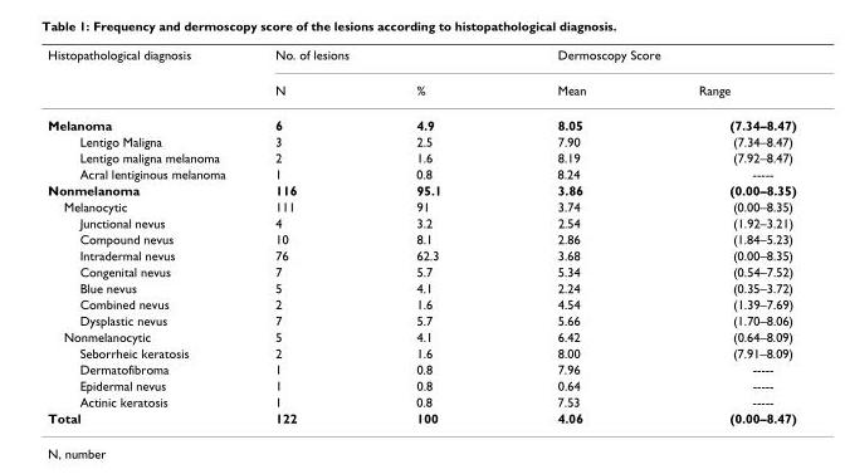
<table><thead><tr><td rowspan="2">Histopathological diagnosis</td><td colspan="2">No. of lesions</td><td colspan="2">Dermoscopy Score</td></tr><tr><td>N</td><td>%</td><td>Mean</td><td>Range</td></tr></thead><tbody><tr><td>Melanoma</td><td>6</td><td>4.9</td><td>8.05</td><td>(7.34–8.47)</td></tr><tr><td>Lentigo Maligna</td><td>3</td><td>2.5</td><td>7.90</td><td>(7.34–8.47)</td></tr><tr><td>Lentigo maligna melanoma</td><td>2</td><td>1.6</td><td>8.19</td><td>(7.92–8.47)</td></tr><tr><td>Acral lentiginous melanoma</td><td>1</td><td>0.8</td><td>8.24</td><td>-----</td></tr><tr><td>Nonmelanoma</td><td>116</td><td>95.1</td><td>3.86</td><td>(0.00–8.35)</td></tr><tr><td>Melanocytic</td><td>111</td><td>91</td><td>3.74</td><td>(0.00–8.35)</td></tr><tr><td>Junctional nevus</td><td>4</td><td>3.2</td><td>2.54</td><td>(1.92–3.21)</td></tr><tr><td>Compound nevus</td><td>10</td><td>8.1</td><td>2.86</td><td>(1.84–5.23)</td></tr><tr><td>Intradermal nevus</td><td>76</td><td>62.3</td><td>3.68</td><td>(0.00–8.35)</td></tr><tr><td>Congenital nevus</td><td>7</td><td>5.7</td><td>5.34</td><td>(0.54–7.52)</td></tr><tr><td>Blue nevus</td><td>5</td><td>4.1</td><td>2.24</td><td>(0.35–3.72)</td></tr><tr><td>Combined nevus</td><td>2</td><td>1.6</td><td>4.54</td><td>(1.39–7.69)</td></tr><tr><td>Dysplastic nevus</td><td>7</td><td>5.7</td><td>5.66</td><td>(1.70–8.06)</td></tr><tr><td>Nonmelanocytic</td><td>5</td><td>4.1</td><td>6.42</td><td>(0.64–8.09)</td></tr><tr><td>Seborrheic keratosis</td><td>2</td><td>1.6</td><td>8.00</td><td>(7.91–8.09)</td></tr><tr><td>Dermatofibroma</td><td>1</td><td>0.8</td><td>7.96</td><td>-----</td></tr><tr><td>Epidermal nevus</td><td>1</td><td>0.8</td><td>0.64</td><td>-----</td></tr><tr><td>Actinic keratosis</td><td>1</td><td>0.8</td><td>7.53</td><td>-----</td></tr><tr><td>Total</td><td>122</td><td>100</td><td>4.06</td><td>(0.00–8.47)</td></tr></tbody></table>